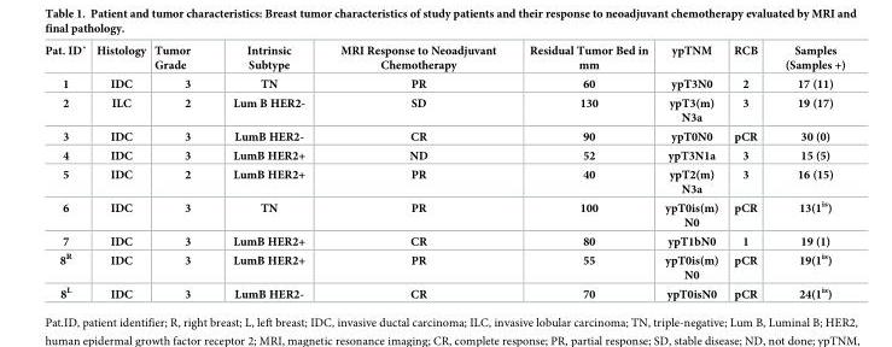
<table><thead><tr><td>Pat. ID˚</td><td>Histology</td><td>Tumor Grade</td><td>Intrinsic Subtype</td><td>MRI Response to Neoadjuvant Chemotherapy</td><td>Residual Tumor Bed in mm</td><td>ypTNM</td><td>RCB</td><td>Samples (Samples +)</td></tr></thead><tbody><tr><td>1</td><td>IDC</td><td>3</td><td>TN</td><td>PR</td><td>60</td><td>ypT3N0</td><td>2</td><td>17 (11)</td></tr><tr><td>2</td><td>ILC</td><td>2</td><td>Lum B HER2-</td><td>SD</td><td>130</td><td>ypT3(m) N3a</td><td>3</td><td>19 (17)</td></tr><tr><td>3</td><td>IDC</td><td>3</td><td>LumB HER2-</td><td>CR</td><td>90</td><td>ypT0N0</td><td>pCR</td><td>30 (0)</td></tr><tr><td>4</td><td>IDC</td><td>3</td><td>LumB HER2+</td><td>ND</td><td>52</td><td>ypT3N1a</td><td>3</td><td>15 (5)</td></tr><tr><td>5</td><td>IDC</td><td>2</td><td>LumB HER2+</td><td>PR</td><td>40</td><td>ypT2(m) N3a</td><td>3</td><td>16 (15)</td></tr><tr><td>6</td><td>IDC</td><td>3</td><td>TN</td><td>PR</td><td>100</td><td>ypT0is(m) N0</td><td>pCR</td><td>13(1<sup>is</sup>)</td></tr><tr><td>7</td><td>IDC</td><td>3</td><td>LumB HER2+</td><td>CR</td><td>80</td><td>ypT1bN0</td><td>1</td><td>19 (1)</td></tr><tr><td>8<sup>R</sup></td><td>IDC</td><td>3</td><td>LumB HER2+</td><td>PR</td><td>55</td><td>ypT0is(m) N0</td><td>pCR</td><td>19(1<sup>is</sup>)</td></tr><tr><td>8<sup>L</sup></td><td>IDC</td><td>3</td><td>LumB HER2-</td><td>CR</td><td>70</td><td>ypT0isN0</td><td>pCR</td><td>24(1<sup>is</sup>)</td></tr></tbody></table>